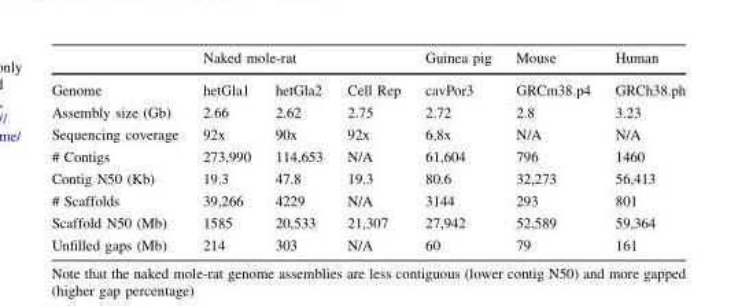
<table><thead><tr><td rowspan="2">Genome</td><td colspan="3">Naked mole-rat</td><td rowspan="2">Guinea pig cavPor3</td><td rowspan="2">Mouse GRCm38.p4</td><td rowspan="2">Human GRCh38.ph</td></tr><tr><td>hetGla1</td><td>hetGla2</td><td>Cell Rep</td></tr></thead><tbody><tr><td>Assembly size (Gb)</td><td>2.66</td><td>2.62</td><td>2.75</td><td>2.72</td><td>2.8</td><td>3.23</td></tr><tr><td>Sequencing coverage</td><td>92x</td><td>90x</td><td>92x</td><td>6.8x</td><td>N/A</td><td>N/A</td></tr><tr><td># Contigs</td><td>273,990</td><td>114,653</td><td>N/A</td><td>61,604</td><td>796</td><td>1460</td></tr><tr><td>Contig N50 (Kb)</td><td>19.3</td><td>47.8</td><td>19.3</td><td>80.6</td><td>32,273</td><td>56,413</td></tr><tr><td># Scaffolds</td><td>39,266</td><td>4229</td><td>N/A</td><td>3144</td><td>293</td><td>801</td></tr><tr><td>Scaffold N50 (Mb)</td><td>1585</td><td>20,533</td><td>21,307</td><td>27,942</td><td>52,589</td><td>59,364</td></tr><tr><td>Unfilled gaps (Mb)</td><td>214</td><td>303</td><td>N/A</td><td>60</td><td>79</td><td>161</td></tr></tbody></table>